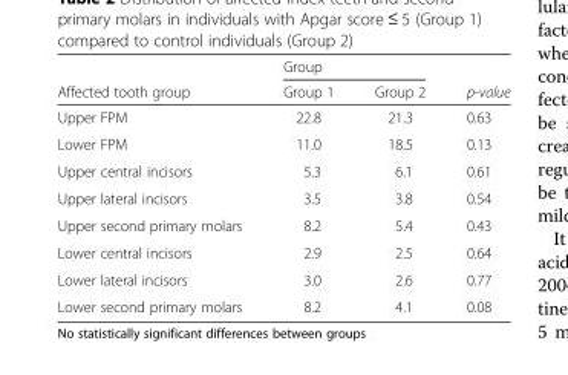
<table><thead><tr><td rowspan="2">Affected tooth group</td><td colspan="2">Group</td><td rowspan="2">p-value</td></tr><tr><td>Group 1</td><td>Group 2</td></tr></thead><tbody><tr><td>Upper FPM</td><td>22.8</td><td>21.3</td><td>0.63</td></tr><tr><td>Lower FPM</td><td>11.0</td><td>18.5</td><td>0.13</td></tr><tr><td>Upper central incisors</td><td>5.3</td><td>6.1</td><td>0.61</td></tr><tr><td>Upper lateral incisors</td><td>3.5</td><td>3.8</td><td>0.54</td></tr><tr><td>Upper second primary molars</td><td>8.2</td><td>5.4</td><td>0.43</td></tr><tr><td>Lower central incisors</td><td>2.9</td><td>2.5</td><td>0.64</td></tr><tr><td>Lower lateral incisors</td><td>3.0</td><td>2.6</td><td>0.77</td></tr><tr><td>Lower second primary molars</td><td>8.2</td><td>4.1</td><td>0.08</td></tr></tbody></table>